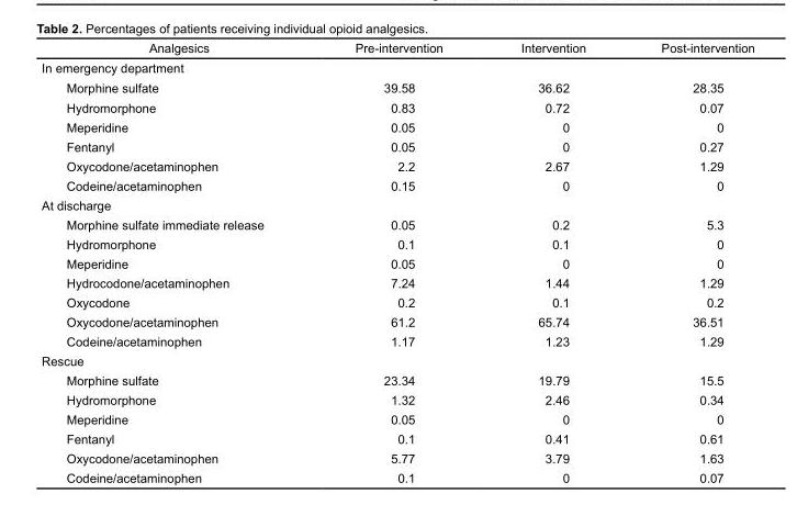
<table><thead><tr><td>Analgesics</td><td>Pre-intervention</td><td>Intervention</td><td>Post-intervention</td></tr></thead><tbody><tr><td colspan="4">In emergency department</td></tr><tr><td>Morphine sulfate</td><td>39.58</td><td>36.62</td><td>28.35</td></tr><tr><td>Hydromorphone</td><td>0.83</td><td>0.72</td><td>0.07</td></tr><tr><td>Meperidine</td><td>0.05</td><td>0</td><td>0</td></tr><tr><td>Fentanyl</td><td>0.05</td><td>0</td><td>0.27</td></tr><tr><td>Oxycodone/acetaminophen</td><td>2.2</td><td>2.67</td><td>1.29</td></tr><tr><td>Codeine/acetaminophen</td><td>0.15</td><td>0</td><td>0</td></tr><tr><td colspan="4">At discharge</td></tr><tr><td>Morphine sulfate immediate release</td><td>0.05</td><td>0.2</td><td>5.3</td></tr><tr><td>Hydromorphone</td><td>0.1</td><td>0.1</td><td>0</td></tr><tr><td>Meperidine</td><td>0.05</td><td>0</td><td>0</td></tr><tr><td>Hydrocodone/acetaminophen</td><td>7.24</td><td>1.44</td><td>1.29</td></tr><tr><td>Oxycodone</td><td>0.2</td><td>0.1</td><td>0.2</td></tr><tr><td>Oxycodone/acetaminophen</td><td>61.2</td><td>65.74</td><td>36.51</td></tr><tr><td>Codeine/acetaminophen</td><td>1.17</td><td>1.23</td><td>1.29</td></tr><tr><td colspan="4">Rescue</td></tr><tr><td>Morphine sulfate</td><td>23.34</td><td>19.79</td><td>15.5</td></tr><tr><td>Hydromorphone</td><td>1.32</td><td>2.46</td><td>0.34</td></tr><tr><td>Meperidine</td><td>0.05</td><td>0</td><td>0</td></tr><tr><td>Fentanyl</td><td>0.1</td><td>0.41</td><td>0.61</td></tr><tr><td>Oxycodone/acetaminophen</td><td>5.77</td><td>3.79</td><td>1.63</td></tr><tr><td>Codeine/acetaminophen</td><td>0.1</td><td>0</td><td>0.07</td></tr></tbody></table>